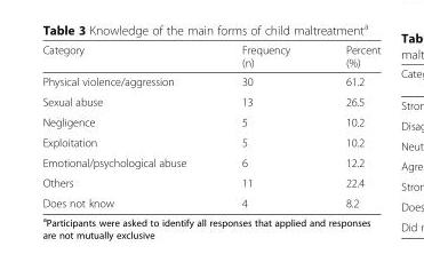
<table><thead><tr><td>Category</td><td>Frequency (n)</td><td>Percent (%)</td></tr></thead><tbody><tr><td>Physical violence/aggression</td><td>30</td><td>61.2</td></tr><tr><td>Sexual abuse</td><td>13</td><td>26.5</td></tr><tr><td>Negligence</td><td>5</td><td>10.2</td></tr><tr><td>Exploitation</td><td>5</td><td>10.2</td></tr><tr><td>Emotional/psychological abuse</td><td>6</td><td>12.2</td></tr><tr><td>Others</td><td>11</td><td>22.4</td></tr><tr><td>Does not know</td><td>4</td><td>8.2</td></tr></tbody></table>